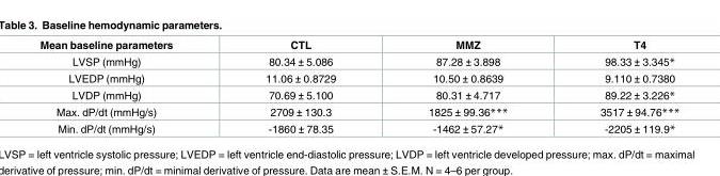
<table><thead><tr><td>Mean baseline parameters</td><td>CTL</td><td>MMZ</td><td>T4</td></tr></thead><tbody><tr><td>LVSP (mmHg)</td><td>80.34 ± 5.086</td><td>87.28 ± 3.898</td><td>98.33 ± 3.345*</td></tr><tr><td>LVEDP (mmHg)</td><td>11.06 ± 0.8729</td><td>10.50 ± 0.8639</td><td>9.110 ± 0.7380</td></tr><tr><td>LVDP (mmHg)</td><td>70.69 ± 5.100</td><td>80.31 ± 4.717</td><td>89.22 ± 3.226*</td></tr><tr><td>Max. dP/dt (mmHg/s)</td><td>2709 ± 130.3</td><td>1825 ± 99.36***</td><td>3517 ± 94.76***</td></tr><tr><td>Min. dP/dt (mmHg/s)</td><td>-1860 ± 78.35</td><td>-1462 ± 57.27*</td><td>-2205 ± 119.9*</td></tr></tbody></table>